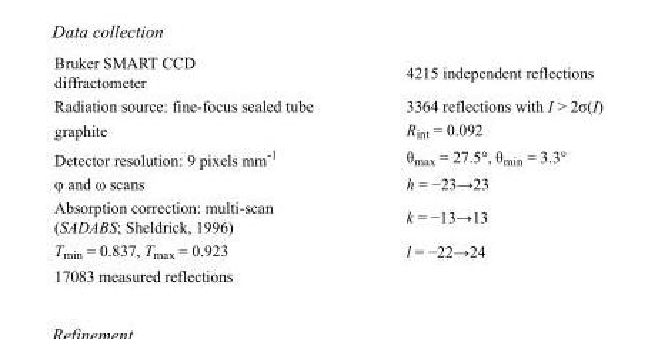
<table><tbody><tr><td>Bruker SMART CCD diffractometer</td><td>4215 independent reflections</td></tr><tr><td>Radiation source: fine-focus sealed tube</td><td>3364 reflections with I &gt; 2σ(I)</td></tr><tr><td>graphite</td><td>R<sub>int</sub> = 0.092</td></tr><tr><td>Detector resolution: 9 pixels mm<sup>-1</sup></td><td>θ<sub>max</sub> = 27.5°, θ<sub>min</sub> = 3.3°</td></tr><tr><td>φ and ω scans</td><td>h = −23→23</td></tr><tr><td>Absorption correction: multi-scan (SADABS; Sheldrick, 1996)</td><td>k = −13→13</td></tr><tr><td>T<sub>min</sub> = 0.837, T<sub>max</sub> = 0.923</td><td>l = −22→24</td></tr><tr><td>17083 measured reflections</td><td></td></tr></tbody></table>